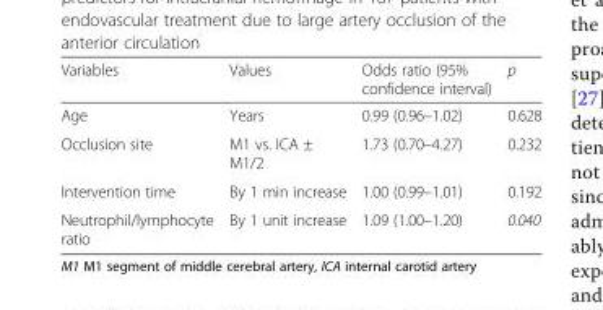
<table><thead><tr><td>Variables</td><td>Values</td><td>Odds ratio (95% confidence interval)</td><td>p</td></tr></thead><tbody><tr><td>Age</td><td>Years</td><td>0.99 (0.96–1.02)</td><td>0.628</td></tr><tr><td>Occlusion site</td><td>M1 vs. ICA ± M1/2</td><td>1.73 (0.70–4.27)</td><td>0.232</td></tr><tr><td>Intervention time</td><td>By 1 min increase</td><td>1.00 (0.99–1.01)</td><td>0.192</td></tr><tr><td>Neutrophil/lymphocyte ratio</td><td>By 1 unit increase</td><td>1.09 (1.00–1.20)</td><td>0.040</td></tr></tbody></table>